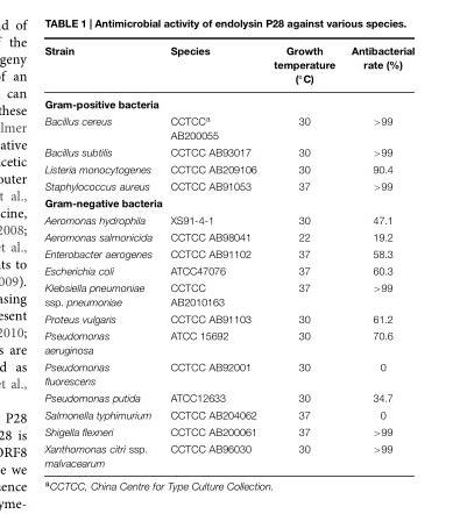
<table><thead><tr><td>Strain</td><td>Species</td><td>Growth temperature (◦C)</td><td>Antibacterial rate (%)</td></tr></thead><tbody><tr><td colspan="4">Gram-positive bacteria</td></tr><tr><td>Bacillus cereus</td><td>CCTCC<sup>a</sup> AB200055</td><td>30</td><td>&gt;99</td></tr><tr><td>Bacillus subtilis</td><td>CCTCC AB93017</td><td>30</td><td>&gt;99</td></tr><tr><td>Listeria monocytogenes</td><td>CCTCC AB209106</td><td>30</td><td>90.4</td></tr><tr><td>Staphylococcus aureus</td><td>CCTCC AB91053</td><td>37</td><td>&gt;99</td></tr><tr><td colspan="4">Gram-negative bacteria</td></tr><tr><td>Aeromonas hydrophila</td><td>XS91-4-1</td><td>30</td><td>47.1</td></tr><tr><td>Aeromonas salmonicida</td><td>CCTCC AB98041</td><td>22</td><td>19.2</td></tr><tr><td>Enterobacter aerogenes</td><td>CCTCC AB91102</td><td>37</td><td>58.3</td></tr><tr><td>Escherichia coli</td><td>ATCC47076</td><td>37</td><td>60.3</td></tr><tr><td>Klebsiella pneumoniae ssp. pneumoniae</td><td>CCTCC AB2010163</td><td>37</td><td>&gt;99</td></tr><tr><td>Proteus vulgaris</td><td>CCTCC AB91103</td><td>30</td><td>61.2</td></tr><tr><td>Pseudomonas aeruginosa</td><td>ATCC 15692</td><td>30</td><td>70.6</td></tr><tr><td>Pseudomonas fluorescens</td><td>CCTCC AB92001</td><td>30</td><td>0</td></tr><tr><td>Pseudomonas putida</td><td>ATCC12633</td><td>30</td><td>34.7</td></tr><tr><td>Salmonella typhimurium</td><td>CCTCC AB204062</td><td>37</td><td>0</td></tr><tr><td>Shigella flexneri</td><td>CCTCC AB200061</td><td>37</td><td>&gt;99</td></tr><tr><td>Xanthomonas citri ssp. malvacearum</td><td>CCTCC AB96030</td><td>30</td><td>&gt;99</td></tr></tbody></table>